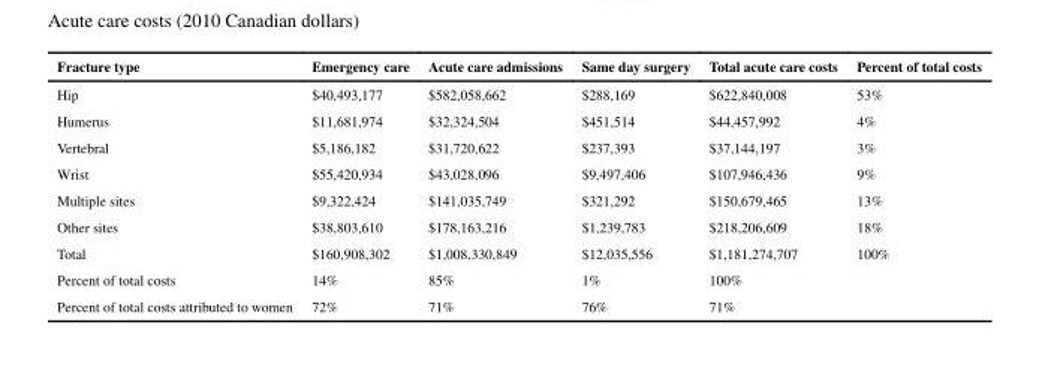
<table><thead><tr><td>Fracture type</td><td>Emergency care</td><td>Acute care admissions</td><td>Same day surgery</td><td>Total acute care costs</td><td>Percent of total costs</td></tr></thead><tbody><tr><td>Hip</td><td>$40,493,177</td><td>$582,058,662</td><td>$288,169</td><td>$622,840,008</td><td>53%</td></tr><tr><td>Humerus</td><td>$11,681,974</td><td>$32,324,504</td><td>$451,514</td><td>$44,457,992</td><td>4%</td></tr><tr><td>Vertebral</td><td>$5,186,182</td><td>$31,720,622</td><td>$237,393</td><td>$37,144,197</td><td>3%</td></tr><tr><td>Wrist</td><td>$55,420,934</td><td>$43,028,096</td><td>$9,497,406</td><td>$107,946,436</td><td>9%</td></tr><tr><td>Multiple sites</td><td>$9,322,424</td><td>$141,035,749</td><td>$321,292</td><td>$150,679,465</td><td>13%</td></tr><tr><td>Other sites</td><td>$38,803,610</td><td>$178,163,216</td><td>$1,239,783</td><td>$218,206,609</td><td>18%</td></tr><tr><td>Total</td><td>$160,908,302</td><td>$1,008,330,849</td><td>$12,035,556</td><td>$1,181,274,707</td><td>100%</td></tr><tr><td>Percent of total costs</td><td>14%</td><td>85%</td><td>1%</td><td>100%</td><td></td></tr><tr><td>Percent of total costs attributed to women</td><td>72%</td><td>71%</td><td>76%</td><td>71%</td><td></td></tr></tbody></table>